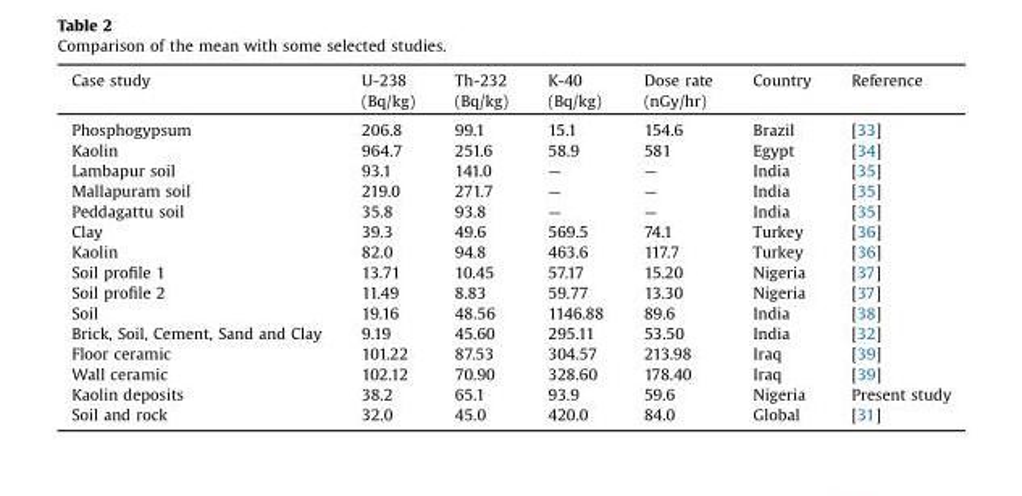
<table><thead><tr><td>Case study</td><td>U-238 (Bq/kg)</td><td>Th-232 (Bq/kg)</td><td>K-40 (Bq/kg)</td><td>Dose rate (nGy/hr)</td><td>Country</td><td>Reference</td></tr></thead><tbody><tr><td>Phosphogypsum</td><td>206.8</td><td>99.1</td><td>15.1</td><td>154.6</td><td>Brazil</td><td>[33]</td></tr><tr><td>Kaolin</td><td>964.7</td><td>251.6</td><td>58.9</td><td>581</td><td>Egypt</td><td>[34]</td></tr><tr><td>Lambapur soil</td><td>93.1</td><td>141.0</td><td>—</td><td>—</td><td>India</td><td>[35]</td></tr><tr><td>Mallapuram soil</td><td>219.0</td><td>271.7</td><td>—</td><td>—</td><td>India</td><td>[35]</td></tr><tr><td>Peddagattu soil</td><td>35.8</td><td>93.8</td><td>—</td><td>—</td><td>India</td><td>[35]</td></tr><tr><td>Clay</td><td>39.3</td><td>49.6</td><td>569.5</td><td>74.1</td><td>Turkey</td><td>[36]</td></tr><tr><td>Kaolin</td><td>82.0</td><td>94.8</td><td>463.6</td><td>117.7</td><td>Turkey</td><td>[36]</td></tr><tr><td>Soil profile 1</td><td>13.71</td><td>10.45</td><td>57.17</td><td>15.20</td><td>Nigeria</td><td>[37]</td></tr><tr><td>Soil profile 2</td><td>11.49</td><td>8.83</td><td>59.77</td><td>13.30</td><td>Nigeria</td><td>[37]</td></tr><tr><td>Soil</td><td>19.16</td><td>48.56</td><td>1146.88</td><td>89.6</td><td>India</td><td>[38]</td></tr><tr><td>Brick, Soil, Cement, Sand and Clay</td><td>9.19</td><td>45.60</td><td>295.11</td><td>53.50</td><td>India</td><td>[32]</td></tr><tr><td>Floor ceramic</td><td>101.22</td><td>87.53</td><td>304.57</td><td>213.98</td><td>Iraq</td><td>[39]</td></tr><tr><td>Wall ceramic</td><td>102.12</td><td>70.90</td><td>328.60</td><td>178.40</td><td>Iraq</td><td>[39]</td></tr><tr><td>Kaolin deposits</td><td>38.2</td><td>65.1</td><td>93.9</td><td>59.6</td><td>Nigeria</td><td>Present study</td></tr><tr><td>Soil and rock</td><td>32.0</td><td>45.0</td><td>420.0</td><td>84.0</td><td>Global</td><td>[31]</td></tr></tbody></table>